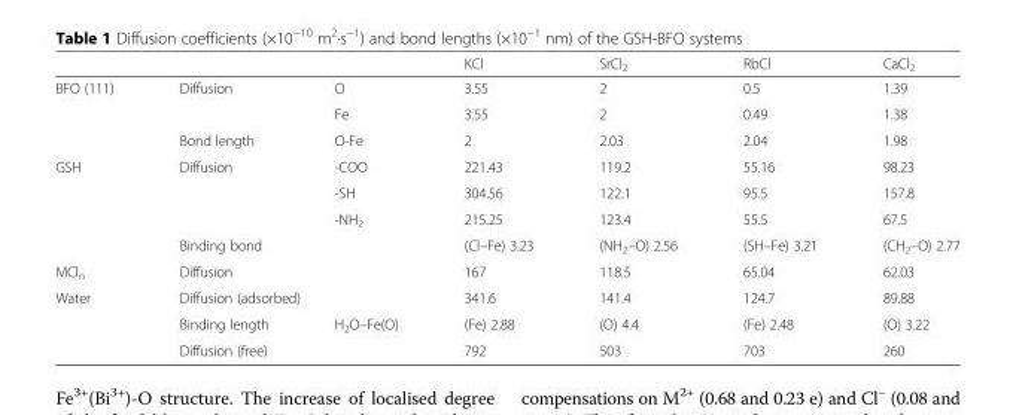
<table><thead><tr><td></td><td></td><td></td><td>KCl</td><td>SrCl<sub>2</sub></td><td>RbCl</td><td>CaCl<sub>2</sub></td></tr></thead><tbody><tr><td rowspan="3">BFO (111)</td><td rowspan="2">Diffusion</td><td>O</td><td>3.55</td><td>2</td><td>0.5</td><td>1.39</td></tr><tr><td>Fe</td><td>3.55</td><td>2</td><td>0.49</td><td>1.38</td></tr><tr><td>Bond length</td><td>O-Fe</td><td>2</td><td>2.03</td><td>2.04</td><td>1.98</td></tr><tr><td rowspan="4">GSH</td><td rowspan="3">Diffusion</td><td>-COO</td><td>221.43</td><td>119.2</td><td>55.16</td><td>98.23</td></tr><tr><td>-SH</td><td>304.56</td><td>122.1</td><td>95.5</td><td>157.8</td></tr><tr><td>-NH<sub>2</sub></td><td>215.25</td><td>123.4</td><td>55.5</td><td>67.5</td></tr><tr><td colspan="2">Binding bond</td><td>(Cl–Fe) 3.23</td><td>(NH<sub>2</sub>–O) 2.56</td><td>(SH–Fe) 3.21</td><td>(CH<sub>2</sub>–O) 2.77</td></tr><tr><td>MCl<sub>n</sub></td><td colspan="2">Diffusion</td><td>167</td><td>118.5</td><td>65.04</td><td>62.03</td></tr><tr><td rowspan="3">Water</td><td colspan="2">Diffusion (adsorbed)</td><td>341.6</td><td>141.4</td><td>124.7</td><td>89.88</td></tr><tr><td>Binding length</td><td>H<sub>2</sub>O–Fe(O)</td><td>(Fe) 2.88</td><td>(O) 4.4</td><td>(Fe) 2.48</td><td>(O) 3.22</td></tr><tr><td colspan="2">Diffusion (free)</td><td>792</td><td>503</td><td>703</td><td>260</td></tr></tbody></table>